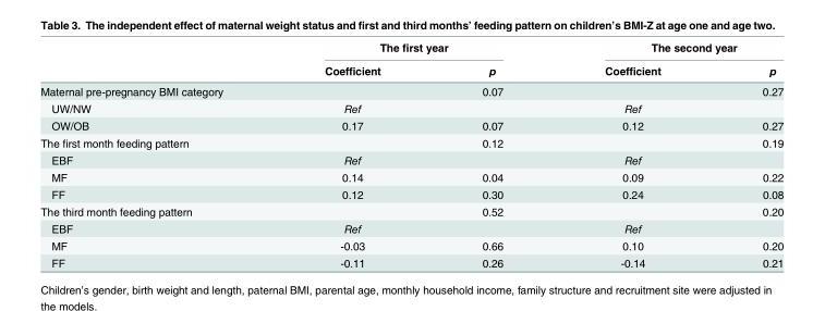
<table><thead><tr><td rowspan="2"></td><td colspan="2">The first year</td><td colspan="2">The second year</td></tr><tr><td>Coefficient</td><td>p</td><td>Coefficient</td><td>p</td></tr></thead><tbody><tr><td>Maternal pre-pregnancy BMI category</td><td></td><td>0.07</td><td></td><td>0.27</td></tr><tr><td>UW/NW</td><td>Ref</td><td></td><td>Ref</td><td></td></tr><tr><td>OW/OB</td><td>0.17</td><td>0.07</td><td>0.12</td><td>0.27</td></tr><tr><td>The first month feeding pattern</td><td></td><td>0.12</td><td></td><td>0.19</td></tr><tr><td>EBF</td><td>Ref</td><td></td><td>Ref</td><td></td></tr><tr><td>MF</td><td>0.14</td><td>0.04</td><td>0.09</td><td>0.22</td></tr><tr><td>FF</td><td>0.12</td><td>0.30</td><td>0.24</td><td>0.08</td></tr><tr><td>The third month feeding pattern</td><td></td><td>0.52</td><td></td><td>0.20</td></tr><tr><td>EBF</td><td>Ref</td><td></td><td>Ref</td><td></td></tr><tr><td>MF</td><td>-0.03</td><td>0.66</td><td>0.10</td><td>0.20</td></tr><tr><td>FF</td><td>-0.11</td><td>0.26</td><td>-0.14</td><td>0.21</td></tr></tbody></table>